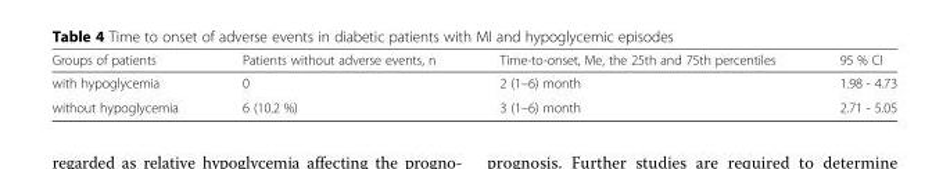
<table><thead><tr><td>Groups of patients</td><td>Patients without adverse events, n</td><td>Time-to-onset, Me, the 25th and 75th percentiles</td><td>95 % CI</td></tr></thead><tbody><tr><td>with hypoglycemia</td><td>0</td><td>2 (1–6) month</td><td>1.98 - 4.73</td></tr><tr><td>without hypoglycemia</td><td>6 (10.2 %)</td><td>3 (1–6) month</td><td>2.71 - 5.05</td></tr></tbody></table>